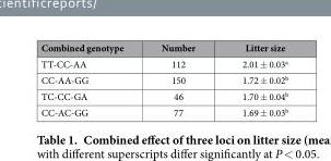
<table><thead><tr><td>Combined genotype</td><td>Number</td><td>Litter size</td></tr></thead><tbody><tr><td>TT-CC-AA</td><td>112</td><td>2.01 ± 0.03<sup>a</sup></td></tr><tr><td>CC-AA-GG</td><td>150</td><td>1.72 ± 0.02<sup>b</sup></td></tr><tr><td>TC-CC-GA</td><td>46</td><td>1.70 ± 0.04<sup>b</sup></td></tr><tr><td>CC-AC-GG</td><td>77</td><td>1.69 ± 0.03<sup>b</sup></td></tr></tbody></table>